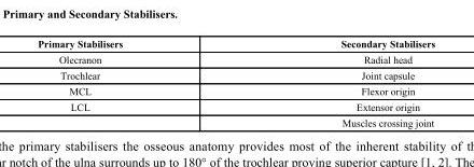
<table><thead><tr><td>Primary Stabilisers</td><td>Secondary Stabilisers</td></tr></thead><tbody><tr><td>Olecranon</td><td>Radial head</td></tr><tr><td>Trochlear</td><td>Joint capsule</td></tr><tr><td>MCL</td><td>Flexor origin</td></tr><tr><td rowspan="2">LCL</td><td>Extensor origin</td></tr><tr><td>Muscles crossing joint</td></tr></tbody></table>